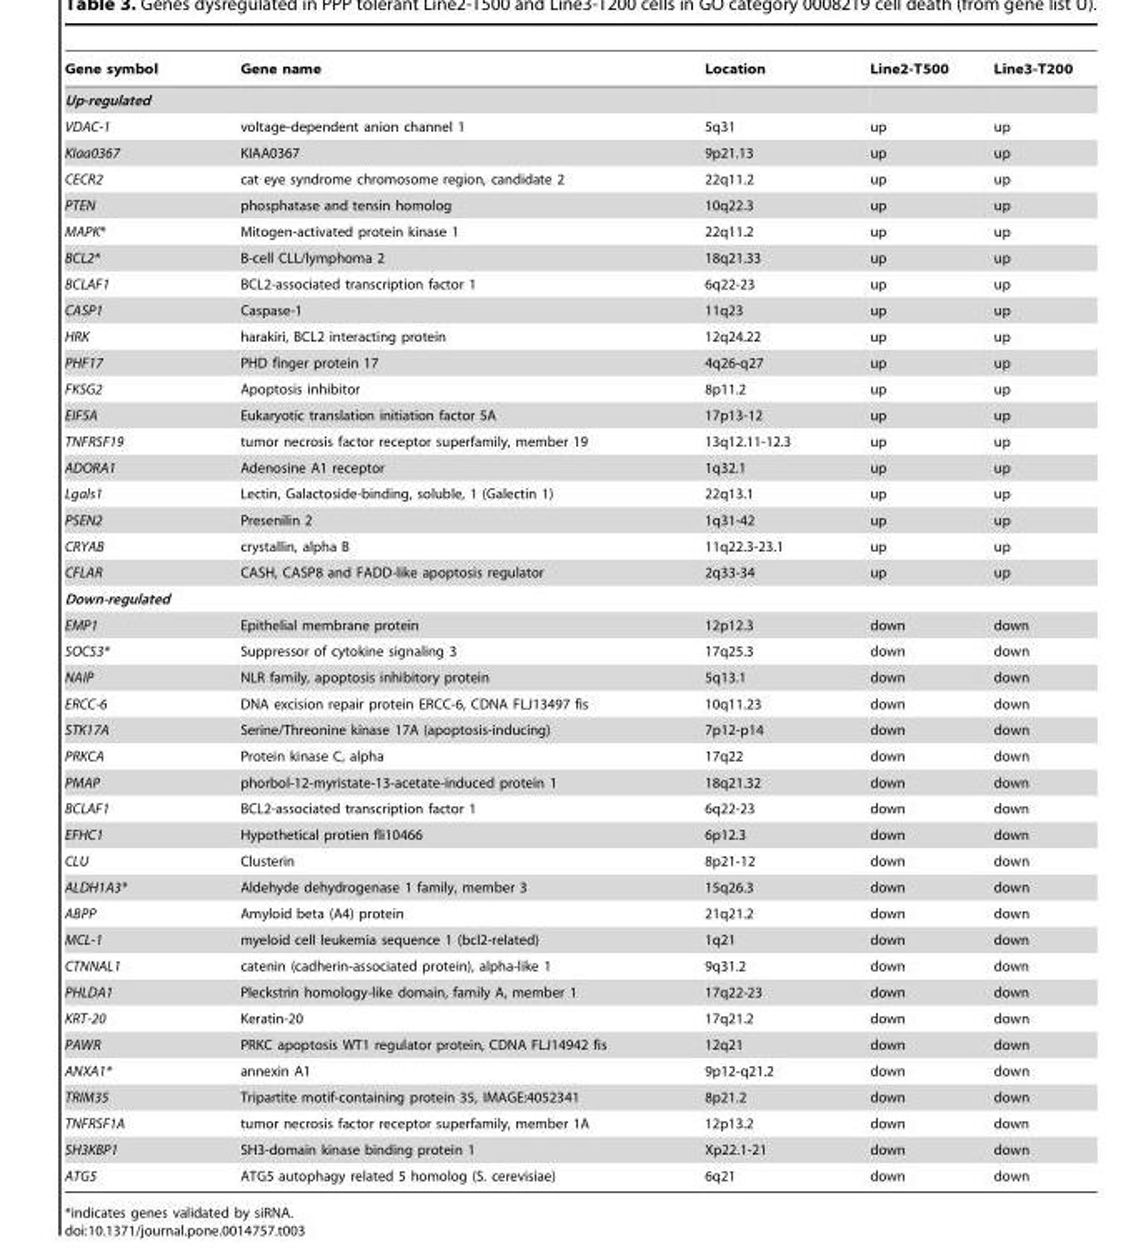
<table><thead><tr><td>Gene symbol</td><td>Gene name</td><td>Location</td><td>Line2-T500</td><td>Line3-T200</td></tr></thead><tbody><tr><td colspan="5">Up-regulated</td></tr><tr><td>VDAC-1</td><td>voltage-dependent anion channel 1</td><td>5q31</td><td>up</td><td>up</td></tr><tr><td>KIaa0367</td><td>KIAA0367</td><td>9p21.13</td><td>up</td><td>up</td></tr><tr><td>CECR2</td><td>cat eye syndrome chromosome region, candidate 2</td><td>22q11.2</td><td>up</td><td>up</td></tr><tr><td>PTEN</td><td>phosphatase and tensin homolog</td><td>10q22.3</td><td>up</td><td>up</td></tr><tr><td>MAPK*</td><td>Mitogen-activated protein kinase 1</td><td>22q11.2</td><td>up</td><td>up</td></tr><tr><td>BCL2*</td><td>B-cell CLL/lymphoma 2</td><td>18q21.33</td><td>up</td><td>up</td></tr><tr><td>BCLAF1</td><td>BCL2-associated transcription factor 1</td><td>6q22-23</td><td>up</td><td>up</td></tr><tr><td>CASP1</td><td>Caspase-1</td><td>11q23</td><td>up</td><td>up</td></tr><tr><td>HRK</td><td>harakiri, BCL2 interacting protein</td><td>12q24.22</td><td>up</td><td>up</td></tr><tr><td>PHF17</td><td>PHD finger protein 17</td><td>4q26-q27</td><td>up</td><td>up</td></tr><tr><td>FKSG2</td><td>Apoptosis inhibitor</td><td>8p11.2</td><td>up</td><td>up</td></tr><tr><td>EIF5A</td><td>Eukaryotic translation initiation factor 5A</td><td>17p13-12</td><td>up</td><td>up</td></tr><tr><td>TNFRSF19</td><td>tumor necrosis factor receptor superfamily, member 19</td><td>13q12.11-12.3</td><td>up</td><td>up</td></tr><tr><td>ADORA1</td><td>Adenosine A1 receptor</td><td>1q32.1</td><td>up</td><td>up</td></tr><tr><td>Lgals1</td><td>Lectin, Galactoside-binding, soluble, 1 (Galectin 1)</td><td>22q13.1</td><td>up</td><td>up</td></tr><tr><td>PSEN2</td><td>Presenilin 2</td><td>1q31-42</td><td>up</td><td>up</td></tr><tr><td>CRYAB</td><td>crystallin, alpha B</td><td>11q22.3-23.1</td><td>up</td><td>up</td></tr><tr><td>CFLAR</td><td>CASH, CASP8 and FADD-like apoptosis regulator</td><td>2q33-34</td><td>up</td><td>up</td></tr><tr><td colspan="5">Down-regulated</td></tr><tr><td>EMP1</td><td>Epithelial membrane protein</td><td>12p12.3</td><td>down</td><td>down</td></tr><tr><td>SOCS3*</td><td>Suppressor of cytokine signaling 3</td><td>17q25.3</td><td>down</td><td>down</td></tr><tr><td>NAIP</td><td>NLR family, apoptosis inhibitory protein</td><td>5q13.1</td><td>down</td><td>down</td></tr><tr><td>ERCC-6</td><td>DNA excision repair protein ERCC-6, CDNA FLJ13497 fis</td><td>10q11.23</td><td>down</td><td>down</td></tr><tr><td>STK17A</td><td>Serine/Threonine kinase 17A (apoptosis-inducing)</td><td>7p12-p14</td><td>down</td><td>down</td></tr><tr><td>PRKCA</td><td>Protein kinase C, alpha</td><td>17q22</td><td>down</td><td>down</td></tr><tr><td>PMAP</td><td>phorbol-12-myristate-13-acetate-induced protein 1</td><td>18q21.32</td><td>down</td><td>down</td></tr><tr><td>BCLAF1</td><td>BCL2-associated transcription factor 1</td><td>6q22-23</td><td>down</td><td>down</td></tr><tr><td>EFHC1</td><td>Hypothetical protien fli10466</td><td>6p12.3</td><td>down</td><td>down</td></tr><tr><td>CLU</td><td>Clusterin</td><td>8p21-12</td><td>down</td><td>down</td></tr><tr><td>ALDH1A3*</td><td>Aldehyde dehydrogenase 1 family, member 3</td><td>15q26.3</td><td>down</td><td>down</td></tr><tr><td>ABPP</td><td>Amyloid beta (A4) protein</td><td>21q21.2</td><td>down</td><td>down</td></tr><tr><td>MCL-1</td><td>myeloid cell leukemia sequence 1 (bcl2-related)</td><td>1q21</td><td>down</td><td>down</td></tr><tr><td>CTNNAL1</td><td>catenin (cadherin-associated protein), alpha-like 1</td><td>9q31.2</td><td>down</td><td>down</td></tr><tr><td>PHLDA1</td><td>Pleckstrin homology-like domain, family A, member 1</td><td>17q22-23</td><td>down</td><td>down</td></tr><tr><td>KRT-20</td><td>Keratin-20</td><td>17q21.2</td><td>down</td><td>down</td></tr><tr><td>PAWR</td><td>PRKC apoptosis WT1 regulator protein, CDNA FLJ14942 fis</td><td>12q21</td><td>down</td><td>down</td></tr><tr><td>ANXA1*</td><td>annexin A1</td><td>9p12-q21.2</td><td>down</td><td>down</td></tr><tr><td>TRIM35</td><td>Tripartite motif-containing protein 35, IMAGE:4052341</td><td>8p21.2</td><td>down</td><td>down</td></tr><tr><td>TNFRSF1A</td><td>tumor necrosis factor receptor superfamily, member 1A</td><td>12p13.2</td><td>down</td><td>down</td></tr><tr><td>SH3KBP1</td><td>SH3-domain kinase binding protein 1</td><td>Xp22.1-21</td><td>down</td><td>down</td></tr><tr><td>ATG5</td><td>ATG5 autophagy related 5 homolog (S. cerevisiae)</td><td>6q21</td><td>down</td><td>down</td></tr></tbody></table>